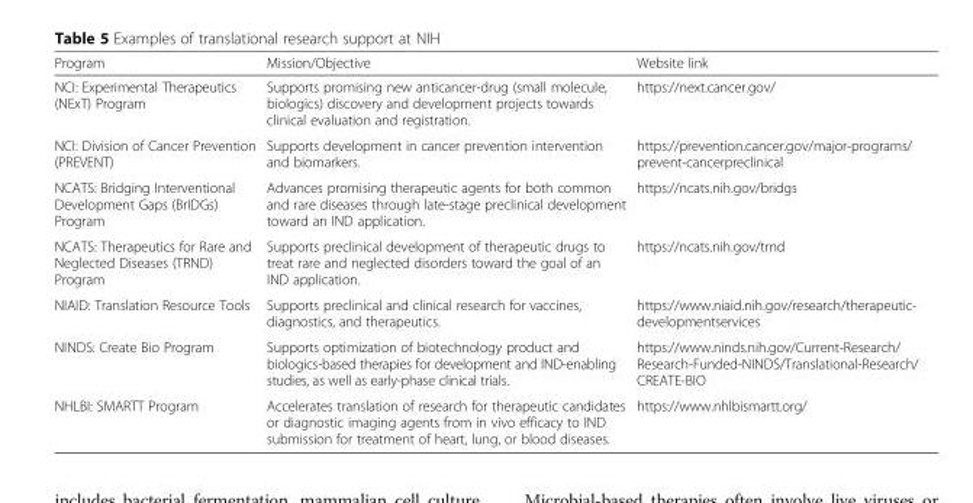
<table><thead><tr><td>Program</td><td>Mission/Objective</td><td>Website link</td></tr></thead><tbody><tr><td>NCI: Experimental Therapeutics (NExT) Program</td><td>Supports promising new anticancer-drug (small molecule, biologics) discovery and development projects towards clinical evaluation and registration.</td><td>https://next.cancer.gov/</td></tr><tr><td>NCI: Division of Cancer Prevention (PREVENT)</td><td>Supports development in cancer prevention intervention and biomarkers.</td><td>https://prevention.cancer.gov/major-programs/ prevent-cancerpreclinical</td></tr><tr><td>NCATS: Bridging Interventional Development Gaps (BrIDGs) Program</td><td>Advances promising therapeutic agents for both common and rare diseases through late-stage preclinical development toward an IND application.</td><td>https://ncats.nih.gov/bridgs</td></tr><tr><td>NCATS: Therapeutics for Rare and Neglected Diseases (TRND) Program</td><td>Supports preclinical development of therapeutic drugs to treat rare and neglected disorders toward the goal of an IND application.</td><td>https://ncats.nih.gov/trnd</td></tr><tr><td>NIAID: Translation Resource Tools</td><td>Supports preclinical and clinical research for vaccines, diagnostics, and therapeutics.</td><td>https://www.niaid.nih.gov/research/therapeutic- developmentservices</td></tr><tr><td>NINDS: Create Bio Program</td><td>Supports optimization of biotechnology product and biologics-based therapies for development and IND-enabling studies, as well as early-phase clinical trials.</td><td>https://www.ninds.nih.gov/Current-Research/ Research-Funded-NINDS/Translational-Research/ CREATE-BIO</td></tr><tr><td>NHLBI: SMARTT Program</td><td>Accelerates translation of research for therapeutic candidates or diagnostic imaging agents from in vivo efficacy to IND submission for treatment of heart, lung, or blood diseases.</td><td>https://www.nhlbismartt.org/</td></tr></tbody></table>